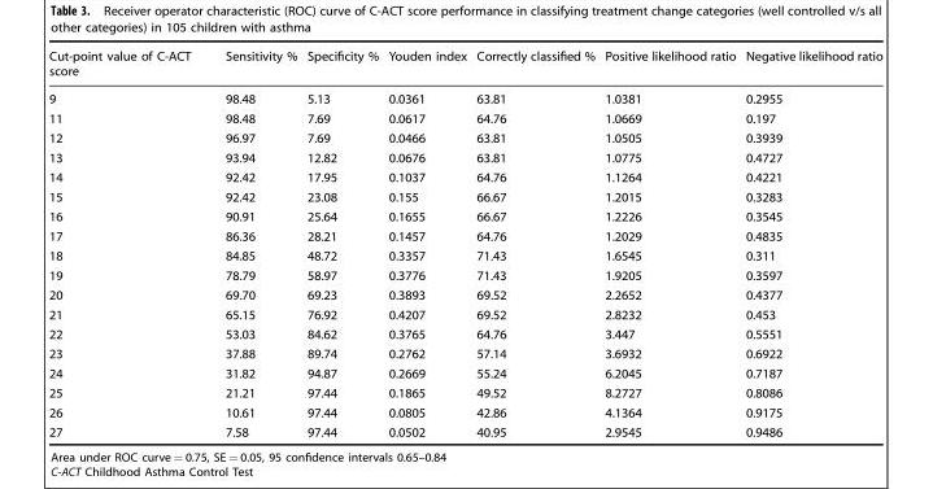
<table><thead><tr><td>Cut-point value of C-ACT score</td><td>Sensitivity %</td><td>Specificity %</td><td>Youden index</td><td>Correctly classified %</td><td>Positive likelihood ratio</td><td>Negative likelihood ratio</td></tr></thead><tbody><tr><td>9</td><td>98.48</td><td>5.13</td><td>0.0361</td><td>63.81</td><td>1.0381</td><td>0.2955</td></tr><tr><td>11</td><td>98.48</td><td>7.69</td><td>0.0617</td><td>64.76</td><td>1.0669</td><td>0.197</td></tr><tr><td>12</td><td>96.97</td><td>7.69</td><td>0.0466</td><td>63.81</td><td>1.0505</td><td>0.3939</td></tr><tr><td>13</td><td>93.94</td><td>12.82</td><td>0.0676</td><td>63.81</td><td>1.0775</td><td>0.4727</td></tr><tr><td>14</td><td>92.42</td><td>17.95</td><td>0.1037</td><td>64.76</td><td>1.1264</td><td>0.4221</td></tr><tr><td>15</td><td>92.42</td><td>23.08</td><td>0.155</td><td>66.67</td><td>1.2015</td><td>0.3283</td></tr><tr><td>16</td><td>90.91</td><td>25.64</td><td>0.1655</td><td>66.67</td><td>1.2226</td><td>0.3545</td></tr><tr><td>17</td><td>86.36</td><td>28.21</td><td>0.1457</td><td>64.76</td><td>1.2029</td><td>0.4835</td></tr><tr><td>18</td><td>84.85</td><td>48.72</td><td>0.3357</td><td>71.43</td><td>1.6545</td><td>0.311</td></tr><tr><td>19</td><td>78.79</td><td>58.97</td><td>0.3776</td><td>71.43</td><td>1.9205</td><td>0.3597</td></tr><tr><td>20</td><td>69.70</td><td>69.23</td><td>0.3893</td><td>69.52</td><td>2.2652</td><td>0.4377</td></tr><tr><td>21</td><td>65.15</td><td>76.92</td><td>0.4207</td><td>69.52</td><td>2.8232</td><td>0.453</td></tr><tr><td>22</td><td>53.03</td><td>84.62</td><td>0.3765</td><td>64.76</td><td>3.447</td><td>0.5551</td></tr><tr><td>23</td><td>37.88</td><td>89.74</td><td>0.2762</td><td>57.14</td><td>3.6932</td><td>0.6922</td></tr><tr><td>24</td><td>31.82</td><td>94.87</td><td>0.2669</td><td>55.24</td><td>6.2045</td><td>0.7187</td></tr><tr><td>25</td><td>21.21</td><td>97.44</td><td>0.1865</td><td>49.52</td><td>8.2727</td><td>0.8086</td></tr><tr><td>26</td><td>10.61</td><td>97.44</td><td>0.0805</td><td>42.86</td><td>4.1364</td><td>0.9175</td></tr><tr><td>27</td><td>7.58</td><td>97.44</td><td>0.0502</td><td>40.95</td><td>2.9545</td><td>0.9486</td></tr></tbody></table>